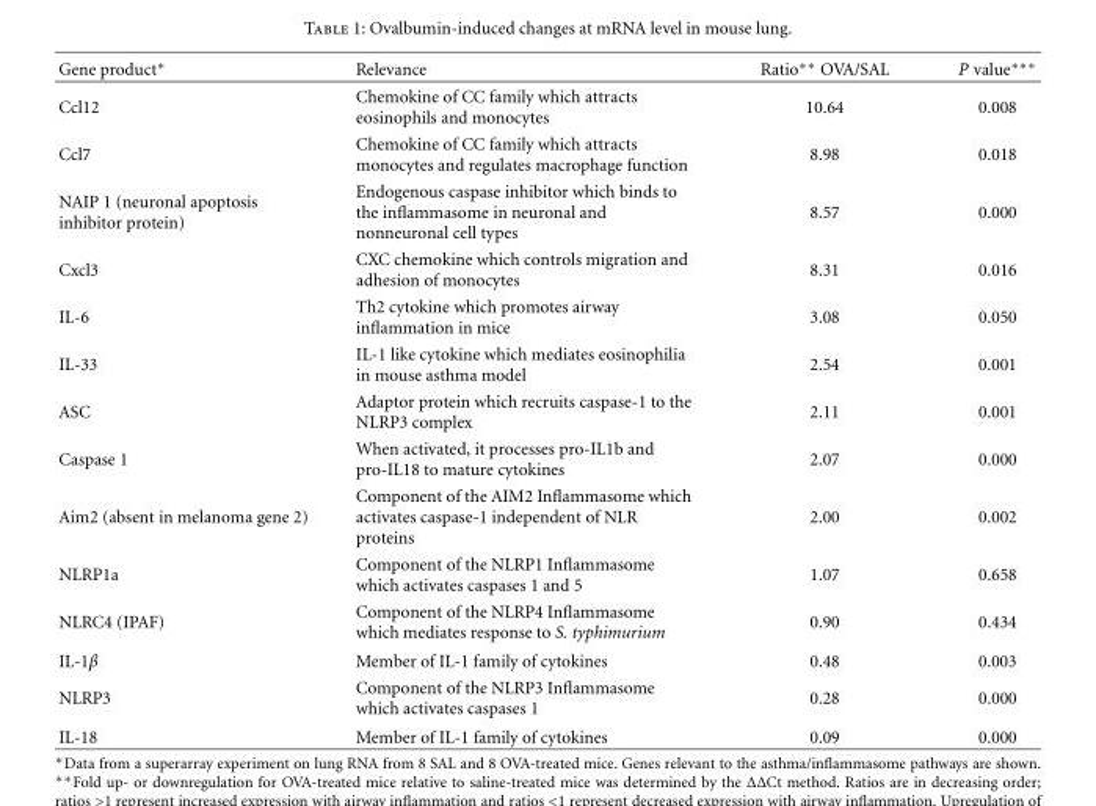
<table><thead><tr><td>Gene product∗</td><td>Relevance</td><td>Ratio∗∗ OVA/SAL</td><td>P value∗∗∗</td></tr></thead><tbody><tr><td>Ccl12</td><td>Chemokine of CC family which attracts eosinophils and monocytes</td><td>10.64</td><td>0.008</td></tr><tr><td>Ccl7</td><td>Chemokine of CC family which attracts monocytes and regulates macrophage function</td><td>8.98</td><td>0.018</td></tr><tr><td>NAIP 1 (neuronal apoptosis inhibitor protein)</td><td>Endogenous caspase inhibitor which binds to the inflammasome in neuronal and nonneuronal cell types</td><td>8.57</td><td>0.000</td></tr><tr><td>Cxcl3</td><td>CXC chemokine which controls migration and adhesion of monocytes</td><td>8.31</td><td>0.016</td></tr><tr><td>IL-6</td><td>Th2 cytokine which promotes airway inflammation in mice</td><td>3.08</td><td>0.050</td></tr><tr><td>IL-33</td><td>IL-1 like cytokine which mediates eosinophilia in mouse asthma model</td><td>2.54</td><td>0.001</td></tr><tr><td>ASC</td><td>Adaptor protein which recruits caspase-1 to the NLRP3 complex</td><td>2.11</td><td>0.001</td></tr><tr><td>Caspase 1</td><td>When activated, it processes pro-IL1b and pro-IL18 to mature cytokines</td><td>2.07</td><td>0.000</td></tr><tr><td>Aim2 (absent in melanoma gene 2)</td><td>Component of the AIM2 Inflammasome which activates caspase-1 independent of NLR proteins</td><td>2.00</td><td>0.002</td></tr><tr><td>NLRP1a</td><td>Component of the NLRP1 Inflammasome which activates caspases 1 and 5</td><td>1.07</td><td>0.658</td></tr><tr><td>NLRC4 (IPAF)</td><td>Component of the NLRP4 Inflammasome which mediates response to S. typhimurium</td><td>0.90</td><td>0.434</td></tr><tr><td>IL-1β</td><td>Member of IL-1 family of cytokines</td><td>0.48</td><td>0.003</td></tr><tr><td>NLRP3</td><td>Component of the NLRP3 Inflammasome which activates caspases 1</td><td>0.28</td><td>0.000</td></tr><tr><td>IL-18</td><td>Member of IL-1 family of cytokines</td><td>0.09</td><td>0.000</td></tr></tbody></table>